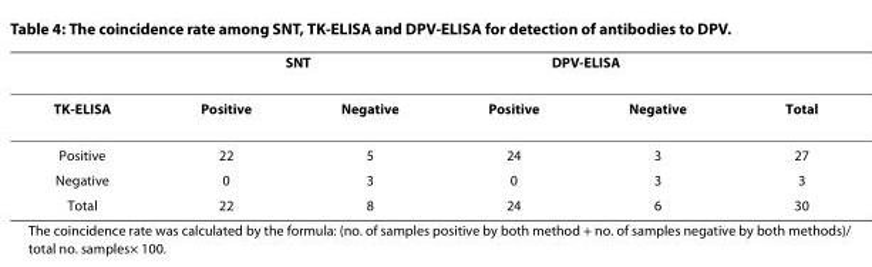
<table><thead><tr><td rowspan="2">TK-ELISA</td><td colspan="2">SNT</td><td colspan="2">DPV-ELISA</td><td rowspan="2">Total</td></tr><tr><td>Positive</td><td>Negative</td><td>Positive</td><td>Negative</td></tr></thead><tbody><tr><td>Positive</td><td>22</td><td>5</td><td>24</td><td>3</td><td>27</td></tr><tr><td>Negative</td><td>0</td><td>3</td><td>0</td><td>3</td><td>3</td></tr><tr><td>Total</td><td>22</td><td>8</td><td>24</td><td>6</td><td>30</td></tr></tbody></table>